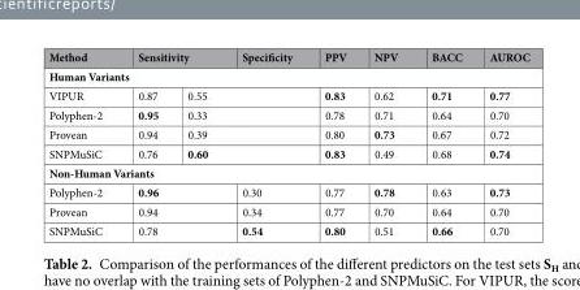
<table><thead><tr><td>Method</td><td colspan="2">Sensitivity</td><td>Specificity</td><td>PPV</td><td>NPV</td><td>BACC</td><td>AUROC</td></tr></thead><tbody><tr><td colspan="8">Human Variants</td></tr><tr><td>VIPUR</td><td>0.87</td><td colspan="2">0.55</td><td>0.83</td><td>0.62</td><td>0.71</td><td>0.77</td></tr><tr><td>Polyphen-2</td><td>0.95</td><td colspan="2">0.33</td><td>0.78</td><td>0.71</td><td>0.64</td><td>0.70</td></tr><tr><td>Provean</td><td>0.94</td><td colspan="2">0.39</td><td>0.80</td><td>0.73</td><td>0.67</td><td>0.72</td></tr><tr><td>SNPMuSiC</td><td>0.76</td><td colspan="2">0.60</td><td>0.83</td><td>0.49</td><td>0.68</td><td>0.74</td></tr><tr><td colspan="8">Non-Human Variants</td></tr><tr><td>Polyphen-2</td><td colspan="2">0.96</td><td>0.30</td><td>0.77</td><td>0.78</td><td>0.63</td><td>0.73</td></tr><tr><td>Provean</td><td colspan="2">0.94</td><td>0.34</td><td>0.77</td><td>0.70</td><td>0.64</td><td>0.70</td></tr><tr><td>SNPMuSiC</td><td colspan="2">0.78</td><td>0.54</td><td>0.80</td><td>0.51</td><td>0.66</td><td>0.70</td></tr></tbody></table>